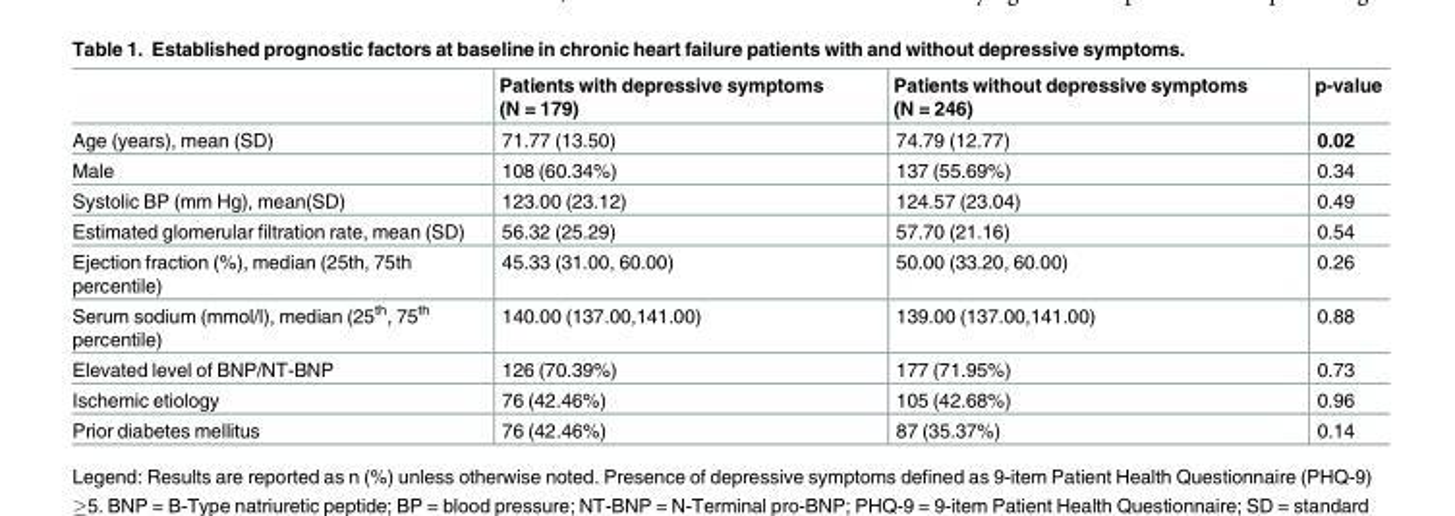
<table><thead><tr><td></td><td>Patients with depressive symptoms (N = 179)</td><td>Patients without depressive symptoms (N = 246)</td><td>p-value</td></tr></thead><tbody><tr><td>Age (years), mean (SD)</td><td>71.77 (13.50)</td><td>74.79 (12.77)</td><td>0.02</td></tr><tr><td>Male</td><td>108 (60.34%)</td><td>137 (55.69%)</td><td>0.34</td></tr><tr><td>Systolic BP (mm Hg), mean(SD)</td><td>123.00 (23.12)</td><td>124.57 (23.04)</td><td>0.49</td></tr><tr><td>Estimated glomerular filtration rate, mean (SD)</td><td>56.32 (25.29)</td><td>57.70 (21.16)</td><td>0.54</td></tr><tr><td>Ejection fraction (%), median (25th, 75th percentile)</td><td>45.33 (31.00, 60.00)</td><td>50.00 (33.20, 60.00)</td><td>0.26</td></tr><tr><td>Serum sodium (mmol/l), median (25<sup>th</sup>, 75<sup>th</sup> percentile)</td><td>140.00 (137.00,141.00)</td><td>139.00 (137.00,141.00)</td><td>0.88</td></tr><tr><td>Elevated level of BNP/NT-BNP</td><td>126 (70.39%)</td><td>177 (71.95%)</td><td>0.73</td></tr><tr><td>Ischemic etiology</td><td>76 (42.46%)</td><td>105 (42.68%)</td><td>0.96</td></tr><tr><td>Prior diabetes mellitus</td><td>76 (42.46%)</td><td>87 (35.37%)</td><td>0.14</td></tr></tbody></table>